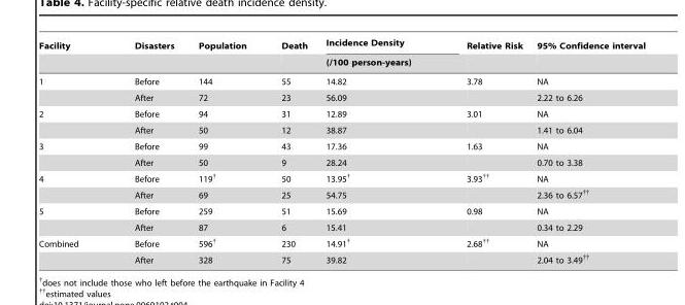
<table><thead><tr><td rowspan="2">Facility</td><td rowspan="2">Disasters</td><td rowspan="2">Population</td><td rowspan="2">Death</td><td rowspan="2">Incidence Density (/100 person-years)</td><td rowspan="2">Relative Risk</td><td rowspan="2">95% Confidence interval</td></tr><tr></tr></thead><tbody><tr><td rowspan="2">1</td><td>Before</td><td>144</td><td>55</td><td>14.82</td><td>3.78</td><td>NA</td></tr><tr><td>After</td><td>72</td><td>23</td><td>56.09</td><td></td><td>2.22 to 6.26</td></tr><tr><td rowspan="2">2</td><td>Before</td><td>94</td><td>31</td><td>12.89</td><td>3.01</td><td>NA</td></tr><tr><td>After</td><td>50</td><td>12</td><td>38.87</td><td></td><td>1.41 to 6.04</td></tr><tr><td rowspan="2">3</td><td>Before</td><td>99</td><td>43</td><td>17.36</td><td>1.63</td><td>NA</td></tr><tr><td>After</td><td>50</td><td>9</td><td>28.24</td><td></td><td>0.70 to 3.38</td></tr><tr><td rowspan="2">4</td><td>Before</td><td>119†</td><td>50</td><td>13.95†</td><td>3.93††</td><td>NA</td></tr><tr><td>After</td><td>69</td><td>25</td><td>54.75</td><td></td><td>2.36 to 6.57††</td></tr><tr><td rowspan="2">5</td><td>Before</td><td>259</td><td>51</td><td>15.69</td><td>0.98</td><td>NA</td></tr><tr><td>After</td><td>87</td><td>6</td><td>15.41</td><td></td><td>0.34 to 2.29</td></tr><tr><td rowspan="2">Combined</td><td>Before</td><td>596†</td><td>230</td><td>14.91†</td><td>2.68††</td><td>NA</td></tr><tr><td>After</td><td>328</td><td>75</td><td>39.82</td><td></td><td>2.04 to 3.49††</td></tr></tbody></table>